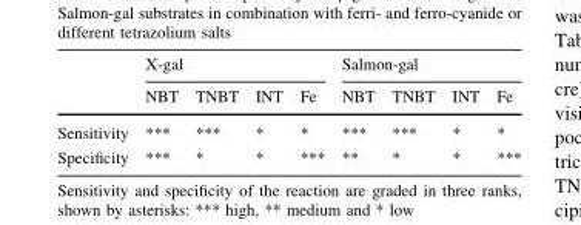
<table><thead><tr><td rowspan="2"></td><td colspan="4">X-gal</td><td colspan="4">Salmon-gal</td></tr><tr><td>NBT</td><td>TNBT</td><td>INT</td><td>Fe</td><td>NBT</td><td>TNBT</td><td>INT</td><td>Fe</td></tr></thead><tbody><tr><td>Sensitivity</td><td>***</td><td>***</td><td>*</td><td>*</td><td>***</td><td>***</td><td>*</td><td>*</td></tr><tr><td>Specificity</td><td>***</td><td>*</td><td>*</td><td>***</td><td>**</td><td>*</td><td>*</td><td>***</td></tr></tbody></table>